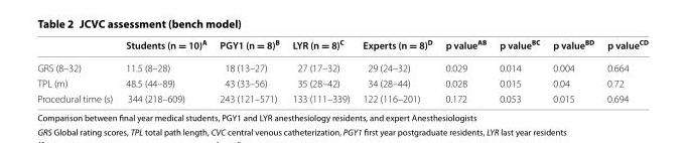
<table><thead><tr><td></td><td>Students (n = 10)<sup>A</sup></td><td>PGY1 (n = 8)<sup>B</sup></td><td>LYR (n = 8)<sup>C</sup></td><td>Experts (n = 8)<sup>D</sup></td><td>p value<sup>AB</sup></td><td>p value<sup>BC</sup></td><td>p value<sup>BD</sup></td><td>p value<sup>CD</sup></td></tr></thead><tbody><tr><td>GRS (8–32)</td><td>11.5 (8–28)</td><td>18 (13–27)</td><td>27 (17–32)</td><td>29 (24–32)</td><td>0.029</td><td>0.014</td><td>0.004</td><td>0.664</td></tr><tr><td>TPL (m)</td><td>48.5 (44–89)</td><td>43 (33–56)</td><td>35 (28–42)</td><td>34 (28–44)</td><td>0.028</td><td>0.015</td><td>0.04</td><td>0.72</td></tr><tr><td>Procedural time (s)</td><td>344 (218–609)</td><td>243 (121–571)</td><td>133 (111–339)</td><td>122 (116–201)</td><td>0.172</td><td>0.053</td><td>0.015</td><td>0.694</td></tr></tbody></table>